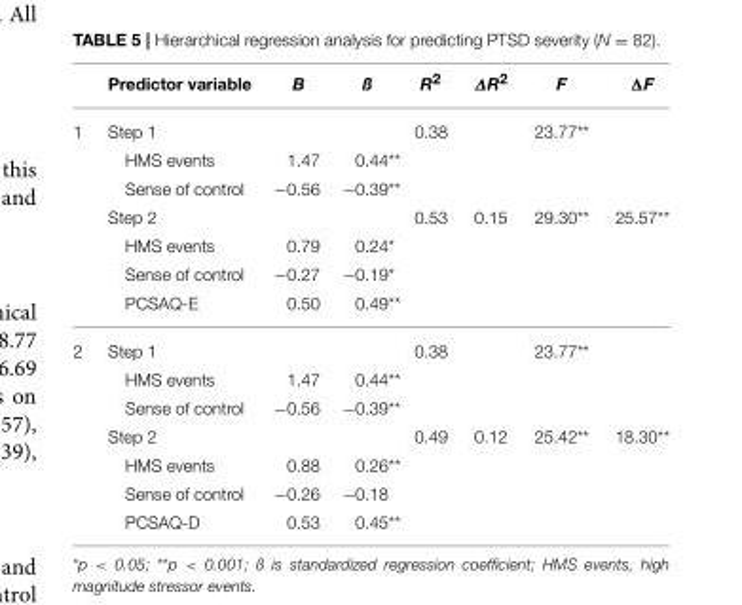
<table><thead><tr><td></td><td>Predictor variable</td><td>B</td><td>ß</td><td>R<sup>2</sup></td><td>∆R2</td><td>F</td><td>ΔF</td></tr></thead><tbody><tr><td rowspan="7">1</td><td>Step 1</td><td></td><td></td><td>0.38</td><td></td><td>23.77**</td><td></td></tr><tr><td>HMS events</td><td>1.47</td><td>0.44**</td><td></td><td></td><td></td><td></td></tr><tr><td>Sense of control</td><td>−0.56</td><td>−0.39**</td><td></td><td></td><td></td><td></td></tr><tr><td>Step 2</td><td></td><td></td><td>0.53</td><td>0.15</td><td>29.30**</td><td>25.57**</td></tr><tr><td>HMS events</td><td>0.79</td><td>0.24*</td><td></td><td></td><td></td><td></td></tr><tr><td>Sense of control</td><td>−0.27</td><td>−0.19*</td><td></td><td></td><td></td><td></td></tr><tr><td>PCSAQ-E</td><td>0.50</td><td>0.49**</td><td></td><td></td><td></td><td></td></tr><tr><td rowspan="7">2</td><td>Step 1</td><td></td><td></td><td>0.38</td><td></td><td>23.77**</td><td></td></tr><tr><td>HMS events</td><td>1.47</td><td>0.44**</td><td></td><td></td><td></td><td></td></tr><tr><td>Sense of control</td><td>−0.56</td><td>−0.39**</td><td></td><td></td><td></td><td></td></tr><tr><td>Step 2</td><td></td><td></td><td>0.49</td><td>0.12</td><td>25.42**</td><td>18.30**</td></tr><tr><td>HMS events</td><td>0.88</td><td>0.26**</td><td></td><td></td><td></td><td></td></tr><tr><td>Sense of control</td><td>−0.26</td><td>−0.18</td><td></td><td></td><td></td><td></td></tr><tr><td>PCSAQ-D</td><td>0.53</td><td>0.45**</td><td></td><td></td><td></td><td></td></tr></tbody></table>